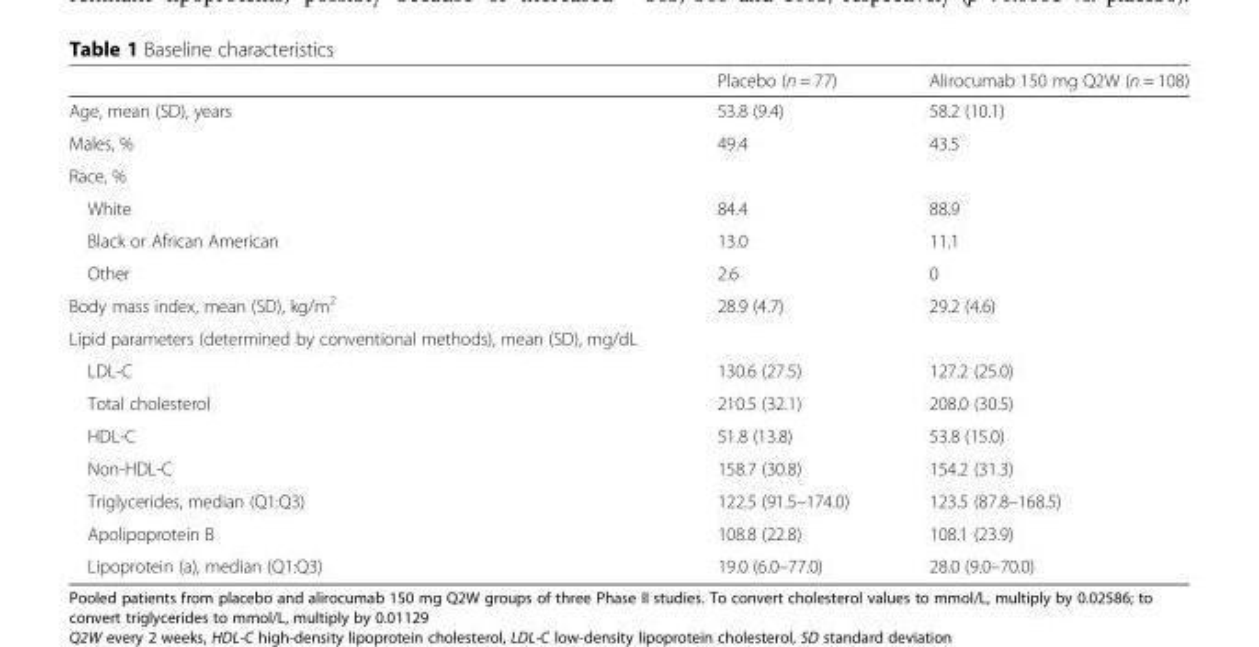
<table><thead><tr><td></td><td>Placebo (n = 77)</td><td>Alirocumab 150 mg Q2W (n = 108)</td></tr></thead><tbody><tr><td>Age, mean (SD), years</td><td>53.8 (9.4)</td><td>58.2 (10.1)</td></tr><tr><td>Males, %</td><td>49.4</td><td>43.5</td></tr><tr><td colspan="3">Race, %</td></tr><tr><td>White</td><td>84.4</td><td>88.9</td></tr><tr><td>Black or African American</td><td>13.0</td><td>11.1</td></tr><tr><td>Other</td><td>2.6</td><td>0</td></tr><tr><td>Body mass index, mean (SD), kg/m<sup>2</sup></td><td>28.9 (4.7)</td><td>29.2 (4.6)</td></tr><tr><td colspan="3">Lipid parameters (determined by conventional methods), mean (SD), mg/dL</td></tr><tr><td>LDL-C</td><td>130.6 (27.5)</td><td>127.2 (25.0)</td></tr><tr><td>Total cholesterol</td><td>210.5 (32.1)</td><td>208.0 (30.5)</td></tr><tr><td>HDL-C</td><td>51.8 (13.8)</td><td>53.8 (15.0)</td></tr><tr><td>Non-HDL-C</td><td>158.7 (30.8)</td><td>154.2 (31.3)</td></tr><tr><td>Triglycerides, median (Q1:Q3)</td><td>122.5 (91.5–174.0)</td><td>123.5 (87.8–168.5)</td></tr><tr><td>Apolipoprotein B</td><td>108.8 (22.8)</td><td>108.1 (23.9)</td></tr><tr><td>Lipoprotein (a), median (Q1:Q3)</td><td>19.0 (6.0–77.0)</td><td>28.0 (9.0–70.0)</td></tr></tbody></table>